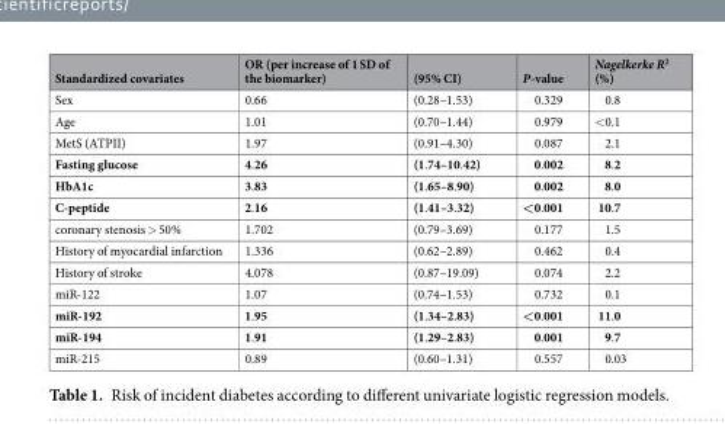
<table><thead><tr><td>Standardized covariates</td><td>OR (per increase of 1 SD of the biomarker)</td><td>(95% CI)</td><td>P-value</td><td>Nagelkerke R<sup>2</sup> (%)</td></tr></thead><tbody><tr><td>Sex</td><td>0.66</td><td>(0.28–1.53)</td><td>0.329</td><td>0.8</td></tr><tr><td>Age</td><td>1.01</td><td>(0.70–1.44)</td><td>0.979</td><td>&lt;0.1</td></tr><tr><td>MetS (ATPII)</td><td>1.97</td><td>(0.91–4.30)</td><td>0.087</td><td>2.1</td></tr><tr><td>Fasting glucose</td><td>4.26</td><td>(1.74–10.42)</td><td>0.002</td><td>8.2</td></tr><tr><td>HbA1c</td><td>3.83</td><td>(1.65–8.90)</td><td>0.002</td><td>8.0</td></tr><tr><td>C-peptide</td><td>2.16</td><td>(1.41–3.32)</td><td>&lt;0.001</td><td>10.7</td></tr><tr><td>coronary stenosis &gt; 50%</td><td>1.702</td><td>(0.79–3.69)</td><td>0.177</td><td>1.5</td></tr><tr><td>History of myocardial infarction</td><td>1.336</td><td>(0.62–2.89)</td><td>0.462</td><td>0.4</td></tr><tr><td>History of stroke</td><td>4.078</td><td>(0.87–19.09)</td><td>0.074</td><td>2.2</td></tr><tr><td>miR-122</td><td>1.07</td><td>(0.74–1.53)</td><td>0.732</td><td>0.1</td></tr><tr><td>miR-192</td><td>1.95</td><td>(1.34–2.83)</td><td>&lt;0.001</td><td>11.0</td></tr><tr><td>miR-194</td><td>1.91</td><td>(1.29–2.83)</td><td>0.001</td><td>9.7</td></tr><tr><td>miR-215</td><td>0.89</td><td>(0.60–1.31)</td><td>0.557</td><td>0.03</td></tr></tbody></table>